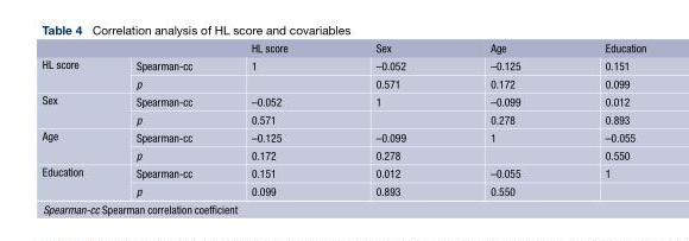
<table><thead><tr><td></td><td></td><td>HL score</td><td>Sex</td><td>Age</td><td>Education</td></tr></thead><tbody><tr><td rowspan="2">HL score</td><td>Spearman-cc</td><td>1</td><td>–0.052</td><td>–0.125</td><td>0.151</td></tr><tr><td>p</td><td></td><td>0.571</td><td>0.172</td><td>0.099</td></tr><tr><td rowspan="2">Sex</td><td>Spearman-cc</td><td>–0.052</td><td>1</td><td>–0.099</td><td>0.012</td></tr><tr><td>p</td><td>0.571</td><td></td><td>0.278</td><td>0.893</td></tr><tr><td rowspan="2">Age</td><td>Spearman-cc</td><td>–0.125</td><td>–0.099</td><td>1</td><td>–0.055</td></tr><tr><td>p</td><td>0.172</td><td>0.278</td><td></td><td>0.550</td></tr><tr><td rowspan="2">Education</td><td>Spearman-cc</td><td>0.151</td><td>0.012</td><td>–0.055</td><td>1</td></tr><tr><td>p</td><td>0.099</td><td>0.893</td><td>0.550</td><td></td></tr></tbody></table>